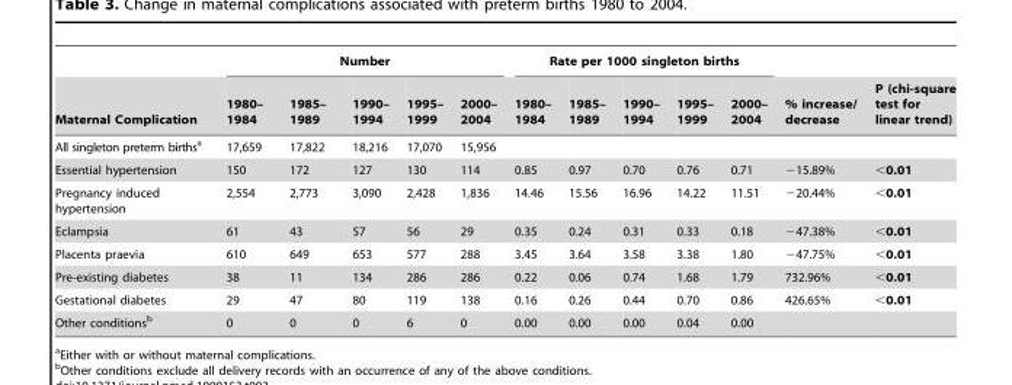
<table><thead><tr><td rowspan="2">Maternal Complication</td><td colspan="5">Number</td><td colspan="5">Rate per 1000 singleton births</td><td rowspan="2">% increase/ decrease</td><td rowspan="2">P (chi-square test for linear trend)</td></tr><tr><td>1980– 1984</td><td>1985– 1989</td><td>1990– 1994</td><td>1995– 1999</td><td>2000– 2004</td><td>1980– 1984</td><td>1985– 1989</td><td>1990– 1994</td><td>1995– 1999</td><td>2000– 2004</td></tr></thead><tbody><tr><td>All singleton preterm births<sup>a</sup></td><td>17,659</td><td>17,822</td><td>18,216</td><td>17,070</td><td>15,956</td><td></td><td></td><td></td><td></td><td></td><td></td><td></td></tr><tr><td>Essential hypertension</td><td>150</td><td>172</td><td>127</td><td>130</td><td>114</td><td>0.85</td><td>0.97</td><td>0.70</td><td>0.76</td><td>0.71</td><td>−15.89%</td><td>&lt;0.01</td></tr><tr><td>Pregnancy induced hypertension</td><td>2,554</td><td>2,773</td><td>3,090</td><td>2,428</td><td>1,836</td><td>14.46</td><td>15.56</td><td>16.96</td><td>14.22</td><td>11.51</td><td>−20.44%</td><td>&lt;0.01</td></tr><tr><td>Eclampsia</td><td>61</td><td>43</td><td>57</td><td>56</td><td>29</td><td>0.35</td><td>0.24</td><td>0.31</td><td>0.33</td><td>0.18</td><td>−47.38%</td><td>&lt;0.01</td></tr><tr><td>Placenta praevia</td><td>610</td><td>649</td><td>653</td><td>577</td><td>288</td><td>3.45</td><td>3.64</td><td>3.58</td><td>3.38</td><td>1.80</td><td>−47.75%</td><td>&lt;0.01</td></tr><tr><td>Pre-existing diabetes</td><td>38</td><td>11</td><td>134</td><td>286</td><td>286</td><td>0.22</td><td>0.06</td><td>0.74</td><td>1.68</td><td>1.79</td><td>732.96%</td><td>&lt;0.01</td></tr><tr><td>Gestational diabetes</td><td>29</td><td>47</td><td>80</td><td>119</td><td>138</td><td>0.16</td><td>0.26</td><td>0.44</td><td>0.70</td><td>0.86</td><td>426.65%</td><td>&lt;0.01</td></tr><tr><td>Other conditions<sup>b</sup></td><td>0</td><td>0</td><td>0</td><td>6</td><td>0</td><td>0.00</td><td>0.00</td><td>0.00</td><td>0.04</td><td>0.00</td><td></td><td></td></tr></tbody></table>